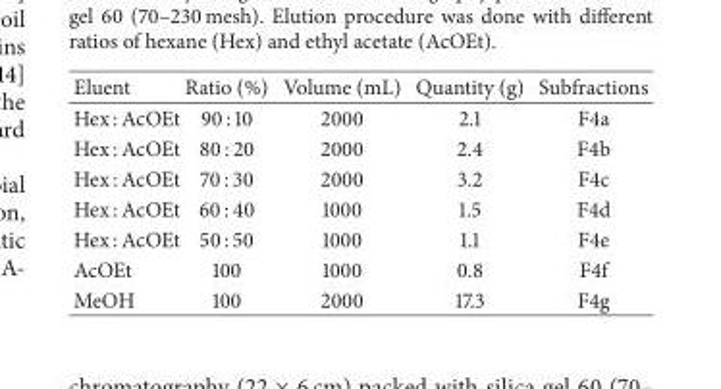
<table><thead><tr><td>Eluent</td><td>Ratio (%)</td><td>Volume (mL)</td><td>Quantity (g)</td><td>Subfractions</td></tr></thead><tbody><tr><td>Hex : AcOEt</td><td>90 : 10</td><td>2000</td><td>2.1</td><td>F4a</td></tr><tr><td>Hex : AcOEt</td><td>80 : 20</td><td>2000</td><td>2.4</td><td>F4b</td></tr><tr><td>Hex : AcOEt</td><td>70 : 30</td><td>2000</td><td>3.2</td><td>F4c</td></tr><tr><td>Hex : AcOEt</td><td>60 : 40</td><td>1000</td><td>1.5</td><td>F4d</td></tr><tr><td>Hex : AcOEt</td><td>50 : 50</td><td>1000</td><td>1.1</td><td>F4e</td></tr><tr><td>AcOEt</td><td>100</td><td>1000</td><td>0.8</td><td>F4f</td></tr><tr><td>MeOH</td><td>100</td><td>2000</td><td>17.3</td><td>F4g</td></tr></tbody></table>